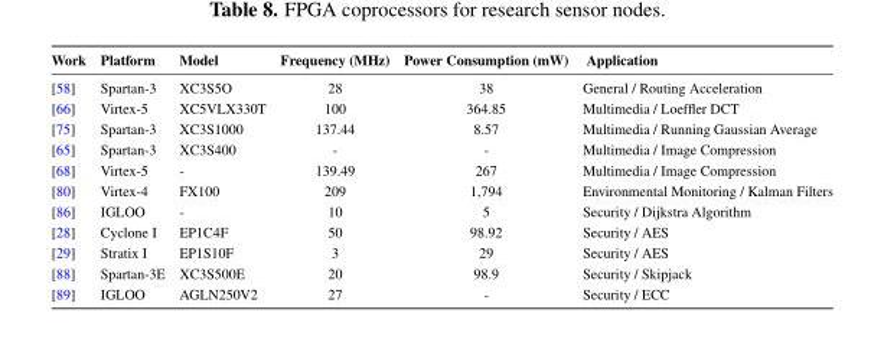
<table><thead><tr><td>Work</td><td>Platform</td><td>Model</td><td>Frequency (MHz)</td><td>Power Consumption (mW)</td><td>Application</td></tr></thead><tbody><tr><td>[58]</td><td>Spartan-3</td><td>XC3S5O</td><td>28</td><td>38</td><td>General / Routing Acceleration</td></tr><tr><td>[66]</td><td>Virtex-5</td><td>XC5VLX330T</td><td>100</td><td>364.85</td><td>Multimedia / Loeffler DCT</td></tr><tr><td>[75]</td><td>Spartan-3</td><td>XC3S1000</td><td>137.44</td><td>8.57</td><td>Multimedia / Running Gaussian Average</td></tr><tr><td>[65]</td><td>Spartan-3</td><td>XC3S400</td><td>-</td><td>-</td><td>Multimedia / Image Compression</td></tr><tr><td>[68]</td><td>Virtex-5</td><td>-</td><td>139.49</td><td>267</td><td>Multimedia / Image Compression</td></tr><tr><td>[80]</td><td>Virtex-4</td><td>FX100</td><td>209</td><td>1,794</td><td>Environmental Monitoring / Kalman Filters</td></tr><tr><td>[86]</td><td>IGLOO</td><td>-</td><td>10</td><td>5</td><td>Security / Dijkstra Algorithm</td></tr><tr><td>[28]</td><td>Cyclone I</td><td>EP1C4F</td><td>50</td><td>98.92</td><td>Security / AES</td></tr><tr><td>[29]</td><td>Stratix I</td><td>EP1S10F</td><td>3</td><td>29</td><td>Security / AES</td></tr><tr><td>[88]</td><td>Spartan-3E</td><td>XC3S500E</td><td>20</td><td>98.9</td><td>Security / Skipjack</td></tr><tr><td>[89]</td><td>IGLOO</td><td>AGLN250V2</td><td>27</td><td>-</td><td>Security / ECC</td></tr></tbody></table>